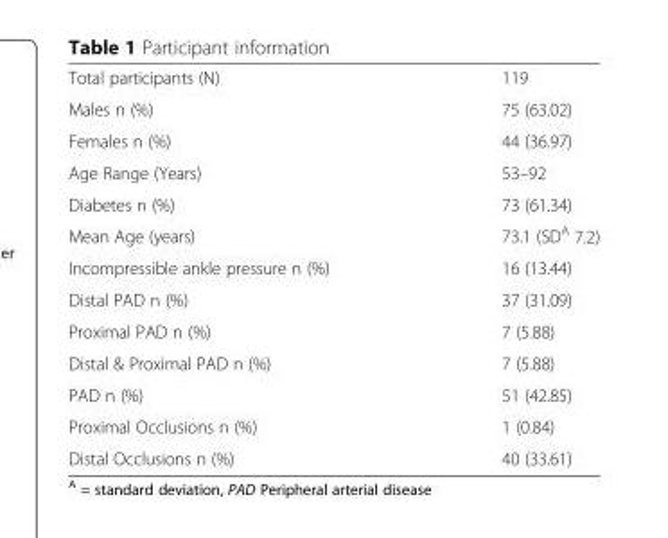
<table><tbody><tr><td>Total participants (N)</td><td>119</td></tr><tr><td>Males n (%)</td><td>75 (63.02)</td></tr><tr><td>Females n (%)</td><td>44 (36.97)</td></tr><tr><td>Age Range (Years)</td><td>53–92</td></tr><tr><td>Diabetes n (%)</td><td>73 (61.34)</td></tr><tr><td>Mean Age (years)</td><td>73.1 (SD<sup>A</sup> 7.2)</td></tr><tr><td>Incompressible ankle pressure n (%)</td><td>16 (13.44)</td></tr><tr><td>Distal PAD n (%)</td><td>37 (31.09)</td></tr><tr><td>Proximal PAD n (%)</td><td>7 (5.88)</td></tr><tr><td>Distal &amp; Proximal PAD n (%)</td><td>7 (5.88)</td></tr><tr><td>PAD n (%)</td><td>51 (42.85)</td></tr><tr><td>Proximal Occlusions n (%)</td><td>1 (0.84)</td></tr><tr><td>Distal Occlusions n (%)</td><td>40 (33.61)</td></tr></tbody></table>